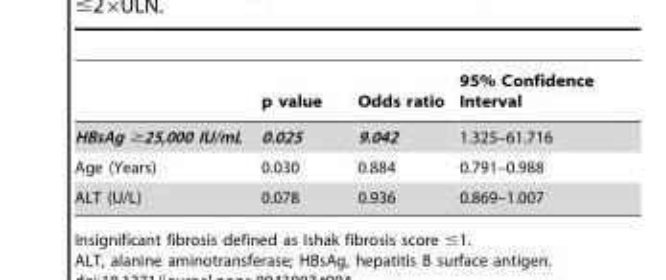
<table><thead><tr><td></td><td>p value</td><td>Odds ratio</td><td>95% Confidence Interval</td></tr></thead><tbody><tr><td>HBsAg ≥25,000 IU/mL</td><td>0.025</td><td>9.042</td><td>1.325–61.716</td></tr><tr><td>Age (Years)</td><td>0.030</td><td>0.884</td><td>0.791–0.988</td></tr><tr><td>ALT (U/L)</td><td>0.078</td><td>0.936</td><td>0.869–1.007</td></tr></tbody></table>